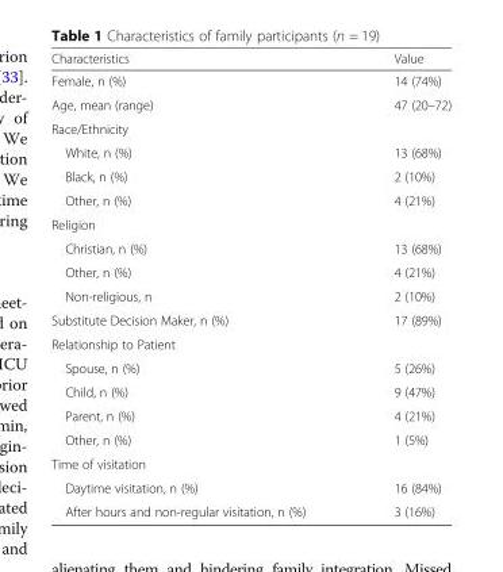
<table><thead><tr><td>Characteristics</td><td>Value</td></tr></thead><tbody><tr><td>Female, n (%)</td><td>14 (74%)</td></tr><tr><td>Age, mean (range)</td><td>47 (20–72)</td></tr><tr><td colspan="2">Race/Ethnicity</td></tr><tr><td>White, n (%)</td><td>13 (68%)</td></tr><tr><td>Black, n (%)</td><td>2 (10%)</td></tr><tr><td>Other, n (%)</td><td>4 (21%)</td></tr><tr><td colspan="2">Religion</td></tr><tr><td>Christian, n (%)</td><td>13 (68%)</td></tr><tr><td>Other, n (%)</td><td>4 (21%)</td></tr><tr><td>Non-religious, n</td><td>2 (10%)</td></tr><tr><td>Substitute Decision Maker, n (%)</td><td>17 (89%)</td></tr><tr><td colspan="2">Relationship to Patient</td></tr><tr><td>Spouse, n (%)</td><td>5 (26%)</td></tr><tr><td>Child, n (%)</td><td>9 (47%)</td></tr><tr><td>Parent, n (%)</td><td>4 (21%)</td></tr><tr><td>Other, n (%)</td><td>1 (5%)</td></tr><tr><td colspan="2">Time of visitation</td></tr><tr><td>Daytime visitation, n (%)</td><td>16 (84%)</td></tr><tr><td>After hours and non-regular visitation, n (%)</td><td>3 (16%)</td></tr></tbody></table>